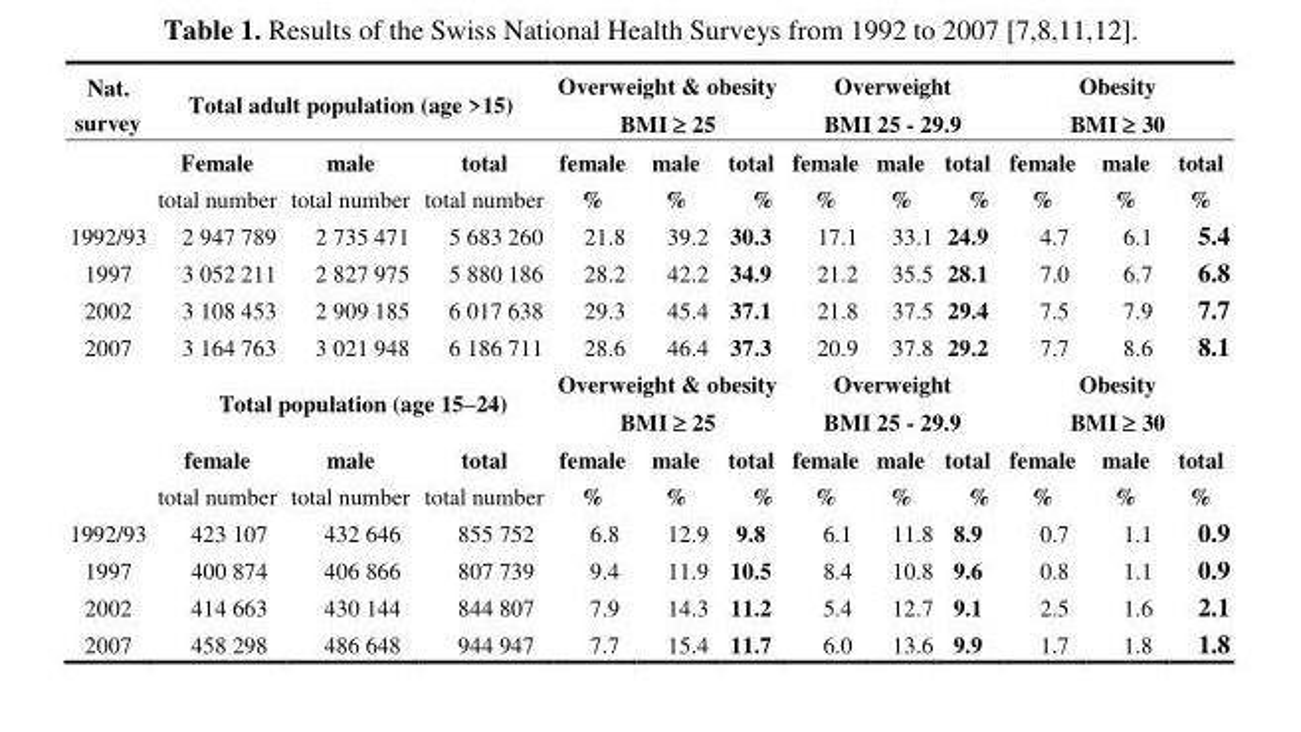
<table><thead><tr><td rowspan="2">Nat. survey</td><td colspan="3">Total adult population (age &gt;15)</td><td colspan="3">Overweight &amp; obesity BMI ≥ 25</td><td colspan="3">Overweight BMI 25 - 29.9</td><td colspan="3">Obesity BMI ≥ 30</td></tr><tr><td>Female</td><td>male</td><td>total</td><td>female</td><td>male</td><td>total</td><td>female</td><td>male</td><td>total</td><td>female</td><td>male</td><td>total</td></tr></thead><tbody><tr><td></td><td>total number</td><td>total number</td><td>total number</td><td>%</td><td>%</td><td>%</td><td>%</td><td>%</td><td>%</td><td>%</td><td>%</td><td>%</td></tr><tr><td>1992/93</td><td>2 947 789</td><td>2 735 471</td><td>5 683 260</td><td>21.8</td><td>39.2</td><td>30.3</td><td>17.1</td><td>33.1</td><td>24.9</td><td>4.7</td><td>6.1</td><td>5.4</td></tr><tr><td>1997</td><td>3 052 211</td><td>2 827 975</td><td>5 880 186</td><td>28.2</td><td>42.2</td><td>34.9</td><td>21.2</td><td>35.5</td><td>28.1</td><td>7.0</td><td>6.7</td><td>6.8</td></tr><tr><td>2002</td><td>3 108 453</td><td>2 909 185</td><td>6 017 638</td><td>29.3</td><td>45.4</td><td>37.1</td><td>21.8</td><td>37.5</td><td>29.4</td><td>7.5</td><td>7.9</td><td>7.7</td></tr><tr><td rowspan="4">2007</td><td>3 164 763</td><td>3 021 948</td><td>6 186 711</td><td>28.6</td><td>46.4</td><td>37.3</td><td>20.9</td><td>37.8</td><td>29.2</td><td>7.7</td><td>8.6</td><td>8.1</td></tr><tr><td colspan="3">Total population (age 15–24)</td><td colspan="3">Overweight &amp; obesity BMI ≥ 25</td><td colspan="3">Overweight BMI 25 - 29.9</td><td colspan="3">Obesity BMI ≥ 30</td></tr><tr><td>female</td><td>male</td><td>total</td><td>female</td><td>male</td><td>total</td><td>female</td><td>male</td><td>total</td><td>female</td><td>male</td><td>total</td></tr><tr><td>total number</td><td>total number</td><td>total number</td><td>%</td><td>%</td><td>%</td><td>%</td><td>%</td><td>%</td><td>%</td><td>%</td><td>%</td></tr><tr><td>1992/93</td><td>423 107</td><td>432 646</td><td>855 752</td><td>6.8</td><td>12.9</td><td>9.8</td><td>6.1</td><td>11.8</td><td>8.9</td><td>0.7</td><td>1.1</td><td>0.9</td></tr><tr><td>1997</td><td>400 874</td><td>406 866</td><td>807 739</td><td>9.4</td><td>11.9</td><td>10.5</td><td>8.4</td><td>10.8</td><td>9.6</td><td>0.8</td><td>1.1</td><td>0.9</td></tr><tr><td>2002</td><td>414 663</td><td>430 144</td><td>844 807</td><td>7.9</td><td>14.3</td><td>11.2</td><td>5.4</td><td>12.7</td><td>9.1</td><td>2.5</td><td>1.6</td><td>2.1</td></tr><tr><td>2007</td><td>458 298</td><td>486 648</td><td>944 947</td><td>7.7</td><td>15.4</td><td>11.7</td><td>6.0</td><td>13.6</td><td>9.9</td><td>1.7</td><td>1.8</td><td>1.8</td></tr></tbody></table>